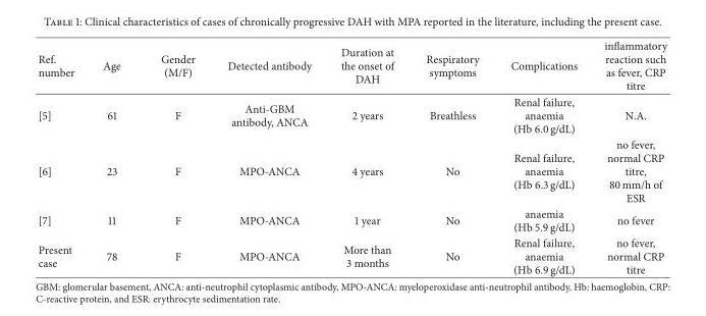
<table><thead><tr><td>Ref. number</td><td>Age</td><td>Gender (M/F)</td><td>Detected antibody</td><td>Duration at the onset of DAH</td><td>Respiratory symptoms</td><td>Complications</td><td>inflammatory reaction such as fever, CRP titre</td></tr></thead><tbody><tr><td>[5]</td><td>61</td><td>F</td><td>Anti-GBM antibody, ANCA</td><td>2 years</td><td>Breathless</td><td>Renal failure, anaemia (Hb 6.0 g/dL)</td><td>N.A.</td></tr><tr><td>[6]</td><td>23</td><td>F</td><td>MPO-ANCA</td><td>4 years</td><td>No</td><td>Renal failure, anaemia (Hb 6.3 g/dL)</td><td>no fever, normal CRP titre, 80 mm/h of ESR</td></tr><tr><td>[7]</td><td>11</td><td>F</td><td>MPO-ANCA</td><td>1 year</td><td>No</td><td>anaemia (Hb 5.9 g/dL)</td><td>no fever</td></tr><tr><td>Present case</td><td>78</td><td>F</td><td>MPO-ANCA</td><td>More than 3 months</td><td>No</td><td>Renal failure, anaemia (Hb 6.9 g/dL)</td><td>no fever, normal CRP titre</td></tr></tbody></table>